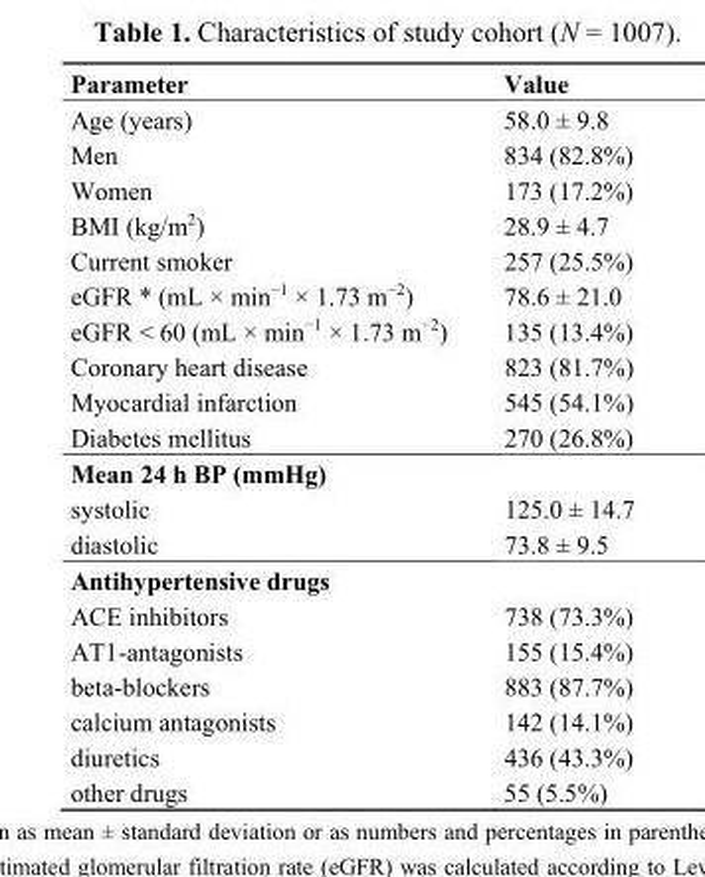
<table><thead><tr><td>Parameter</td><td>Value</td></tr></thead><tbody><tr><td>Age (years)</td><td>58.0 ± 9.8</td></tr><tr><td>Men</td><td>834 (82.8%)</td></tr><tr><td>Women</td><td>173 (17.2%)</td></tr><tr><td>BMI (kg/m<sup>2</sup>)</td><td>28.9 ± 4.7</td></tr><tr><td>Current smoker</td><td>257 (25.5%)</td></tr><tr><td>eGFR * (mL × min<sup>−1</sup> × 1.73 m<sup>−2</sup>)</td><td>78.6 ± 21.0</td></tr><tr><td>eGFR &lt; 60 (mL × min<sup>−1</sup> × 1.73 m<sup>−2</sup>)</td><td>135 (13.4%)</td></tr><tr><td>Coronary heart disease</td><td>823 (81.7%)</td></tr><tr><td>Myocardial infarction</td><td>545 (54.1%)</td></tr><tr><td>Diabetes mellitus</td><td>270 (26.8%)</td></tr><tr><td colspan="2">Mean 24 h BP (mmHg)</td></tr><tr><td>systolic</td><td>125.0 ± 14.7</td></tr><tr><td>diastolic</td><td>73.8 ± 9.5</td></tr><tr><td colspan="2">Antihypertensive drugs</td></tr><tr><td>ACE inhibitors</td><td>738 (73.3%)</td></tr><tr><td>AT1-antagonists</td><td>155 (15.4%)</td></tr><tr><td>beta-blockers</td><td>883 (87.7%)</td></tr><tr><td>calcium antagonists</td><td>142 (14.1%)</td></tr><tr><td>diuretics</td><td>436 (43.3%)</td></tr><tr><td>other drugs</td><td>55 (5.5%)</td></tr></tbody></table>